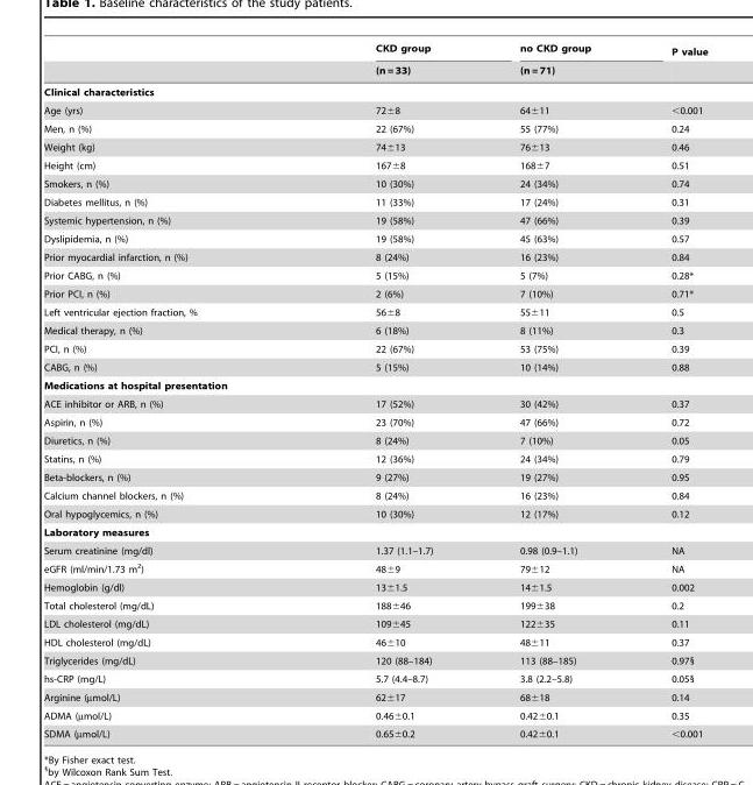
<table><thead><tr><td rowspan="2"></td><td rowspan="2">CKD group (n = 33)</td><td rowspan="2">no CKD group (n = 71)</td><td rowspan="2">P value</td></tr><tr></tr></thead><tbody><tr><td colspan="4">Clinical characteristics</td></tr><tr><td>Age (yrs)</td><td>72±8</td><td>64±11</td><td>&lt;0.001</td></tr><tr><td>Men, n (%)</td><td>22 (67%)</td><td>55 (77%)</td><td>0.24</td></tr><tr><td>Weight (kg)</td><td>74±13</td><td>76±13</td><td>0.46</td></tr><tr><td>Height (cm)</td><td>167±8</td><td>168±7</td><td>0.51</td></tr><tr><td>Smokers, n (%)</td><td>10 (30%)</td><td>24 (34%)</td><td>0.74</td></tr><tr><td>Diabetes mellitus, n (%)</td><td>11 (33%)</td><td>17 (24%)</td><td>0.31</td></tr><tr><td>Systemic hypertension, n (%)</td><td>19 (58%)</td><td>47 (66%)</td><td>0.39</td></tr><tr><td>Dyslipidemia, n (%)</td><td>19 (58%)</td><td>45 (63%)</td><td>0.57</td></tr><tr><td>Prior myocardial infarction, n (%)</td><td>8 (24%)</td><td>16 (23%)</td><td>0.84</td></tr><tr><td>Prior CABG, n (%)</td><td>5 (15%)</td><td>5 (7%)</td><td>0.28*</td></tr><tr><td>Prior PCI, n (%)</td><td>2 (6%)</td><td>7 (10%)</td><td>0.71*</td></tr><tr><td>Left ventricular ejection fraction, %</td><td>56±8</td><td>55±11</td><td>0.5</td></tr><tr><td>Medical therapy, n (%)</td><td>6 (18%)</td><td>8 (11%)</td><td>0.3</td></tr><tr><td>PCI, n (%)</td><td>22 (67%)</td><td>53 (75%)</td><td>0.39</td></tr><tr><td>CABG, n (%)</td><td>5 (15%)</td><td>10 (14%)</td><td>0.88</td></tr><tr><td colspan="4">Medications at hospital presentation</td></tr><tr><td>ACE inhibitor or ARB, n (%)</td><td>17 (52%)</td><td>30 (42%)</td><td>0.37</td></tr><tr><td>Aspirin, n (%)</td><td>23 (70%)</td><td>47 (66%)</td><td>0.72</td></tr><tr><td>Diuretics, n (%)</td><td>8 (24%)</td><td>7 (10%)</td><td>0.05</td></tr><tr><td>Statins, n (%)</td><td>12 (36%)</td><td>24 (34%)</td><td>0.79</td></tr><tr><td>Beta-blockers, n (%)</td><td>9 (27%)</td><td>19 (27%)</td><td>0.95</td></tr><tr><td>Calcium channel blockers, n (%)</td><td>8 (24%)</td><td>16 (23%)</td><td>0.84</td></tr><tr><td>Oral hypoglycemics, n (%)</td><td>10 (30%)</td><td>12 (17%)</td><td>0.12</td></tr><tr><td colspan="4">Laboratory measures</td></tr><tr><td>Serum creatinine (mg/dl)</td><td>1.37 (1.1–1.7)</td><td>0.98 (0.9–1.1)</td><td>NA</td></tr><tr><td>eGFR (ml/min/1.73 m<sup>2</sup>)</td><td>48±9</td><td>79±12</td><td>NA</td></tr><tr><td>Hemoglobin (g/dl)</td><td>13±1.5</td><td>14±1.5</td><td>0.002</td></tr><tr><td>Total cholesterol (mg/dL)</td><td>188±46</td><td>199±38</td><td>0.2</td></tr><tr><td>LDL cholesterol (mg/dL)</td><td>109±45</td><td>122±35</td><td>0.11</td></tr><tr><td>HDL cholesterol (mg/dL)</td><td>46±10</td><td>48±11</td><td>0.37</td></tr><tr><td>Triglycerides (mg/dL)</td><td>120 (88–184)</td><td>113 (88–185)</td><td>0.97§</td></tr><tr><td>hs-CRP (mg/L)</td><td>5.7 (4.4–8.7)</td><td>3.8 (2.2–5.8)</td><td>0.05§</td></tr><tr><td>Arginine (µmol/L)</td><td>62±17</td><td>68±18</td><td>0.14</td></tr><tr><td>ADMA (µmol/L)</td><td>0.46±0.1</td><td>0.42±0.1</td><td>0.35</td></tr><tr><td>SDMA (µmol/L)</td><td>0.65±0.2</td><td>0.42±0.1</td><td>&lt;0.001</td></tr></tbody></table>